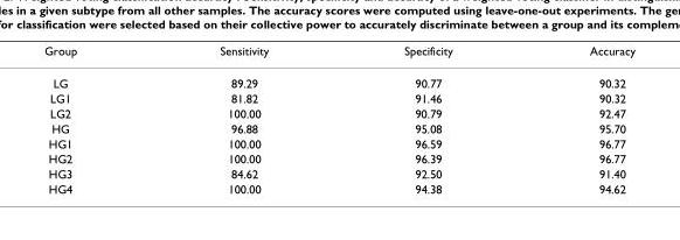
<table><thead><tr><td>Group</td><td>Sensitivity</td><td>Specificity</td><td>Accuracy</td></tr></thead><tbody><tr><td>LG</td><td>89.29</td><td>90.77</td><td>90.32</td></tr><tr><td>LG1</td><td>81.82</td><td>91.46</td><td>90.32</td></tr><tr><td>LG2</td><td>100.00</td><td>90.79</td><td>92.47</td></tr><tr><td>HG</td><td>96.88</td><td>95.08</td><td>95.70</td></tr><tr><td>HG1</td><td>100.00</td><td>96.59</td><td>96.77</td></tr><tr><td>HG2</td><td>100.00</td><td>96.39</td><td>96.77</td></tr><tr><td>HG3</td><td>84.62</td><td>92.50</td><td>91.40</td></tr><tr><td>HG4</td><td>100.00</td><td>94.38</td><td>94.62</td></tr></tbody></table>